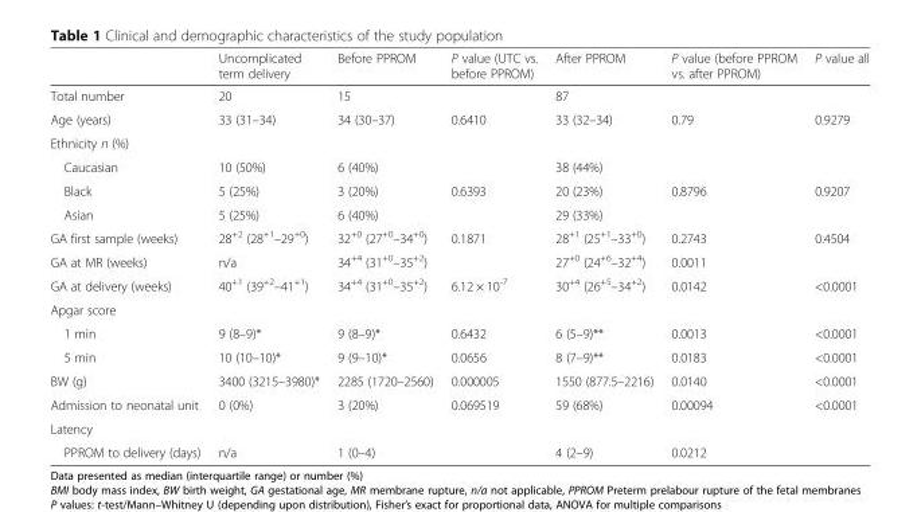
<table><thead><tr><td></td><td>Uncomplicated term delivery</td><td>Before PPROM</td><td>P value (UTC vs. before PPROM)</td><td>After PPROM</td><td>P value (before PPROM vs. after PPROM)</td><td>P value all</td></tr></thead><tbody><tr><td>Total number</td><td>20</td><td>15</td><td></td><td>87</td><td></td><td></td></tr><tr><td>Age (years)</td><td>33 (31–34)</td><td>34 (30–37)</td><td>0.6410</td><td>33 (32–34)</td><td>0.79</td><td>0.9279</td></tr><tr><td colspan="7">Ethnicity n (%)</td></tr><tr><td>Caucasian</td><td>10 (50%)</td><td>6 (40%)</td><td></td><td>38 (44%)</td><td></td><td></td></tr><tr><td>Black</td><td>5 (25%)</td><td>3 (20%)</td><td>0.6393</td><td>20 (23%)</td><td>0.8796</td><td>0.9207</td></tr><tr><td>Asian</td><td>5 (25%)</td><td>6 (40%)</td><td></td><td>29 (33%)</td><td></td><td></td></tr><tr><td>GA first sample (weeks)</td><td>28<sup>+2</sup> (28<sup>+1</sup>–29<sup>+0</sup>)</td><td>32<sup>+0</sup> (27<sup>+0</sup>–34<sup>+0</sup>)</td><td>0.1871</td><td>28<sup>+1</sup> (25<sup>+1</sup>–33<sup>+0</sup>)</td><td>0.2743</td><td>0.4504</td></tr><tr><td>GA at MR (weeks)</td><td>n/a</td><td>34<sup>+4</sup> (31<sup>+0</sup>–35<sup>+2</sup>)</td><td></td><td>27<sup>+0</sup> (24<sup>+6</sup>–32<sup>+4</sup>)</td><td>0.0011</td><td></td></tr><tr><td>GA at delivery (weeks)</td><td>40<sup>+1</sup> (39<sup>+2</sup>–41<sup>+1</sup>)</td><td>34<sup>+4</sup> (31<sup>+0</sup>–35<sup>+2</sup>)</td><td>6.12 × 10<sup>-7</sup></td><td>30<sup>+4</sup> (26<sup>+5</sup>–34<sup>+2</sup>)</td><td>0.0142</td><td>&lt;0.0001</td></tr><tr><td colspan="7">Apgar score</td></tr><tr><td>1 min</td><td>9 (8–9)*</td><td>9 (8–9)*</td><td>0.6432</td><td>6 (5–9)**</td><td>0.0013</td><td>&lt;0.0001</td></tr><tr><td>5 min</td><td>10 (10–10)*</td><td>9 (9–10)*</td><td>0.0656</td><td>8 (7–9)**</td><td>0.0183</td><td>&lt;0.0001</td></tr><tr><td>BW (g)</td><td>3400 (3215–3980)*</td><td>2285 (1720–2560)</td><td>0.000005</td><td>1550 (877.5–2216)</td><td>0.0140</td><td>&lt;0.0001</td></tr><tr><td>Admission to neonatal unit</td><td>0 (0%)</td><td>3 (20%)</td><td>0.069519</td><td>59 (68%)</td><td>0.00094</td><td>&lt;0.0001</td></tr><tr><td colspan="7">Latency</td></tr><tr><td>PPROM to delivery (days)</td><td>n/a</td><td>1 (0–4)</td><td></td><td>4 (2–9)</td><td>0.0212</td><td></td></tr></tbody></table>